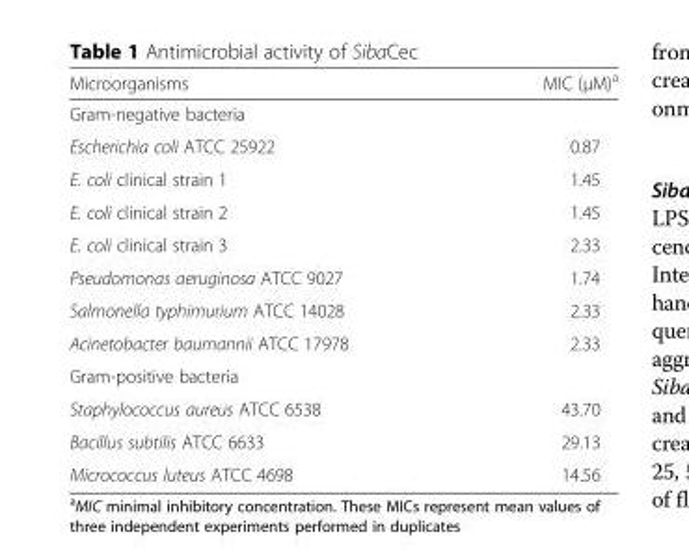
<table><thead><tr><td>Microorganisms</td><td>MIC (μM)<sup>a</sup></td></tr></thead><tbody><tr><td colspan="2">Gram-negative bacteria</td></tr><tr><td>Escherichia coli ATCC 25922</td><td>0.87</td></tr><tr><td>E. coli clinical strain 1</td><td>1.45</td></tr><tr><td>E. coli clinical strain 2</td><td>1.45</td></tr><tr><td>E. coli clinical strain 3</td><td>2.33</td></tr><tr><td>Pseudomonas aeruginosa ATCC 9027</td><td>1.74</td></tr><tr><td>Salmonella typhimurium ATCC 14028</td><td>2.33</td></tr><tr><td>Acinetobacter baumannii ATCC 17978</td><td>2.33</td></tr><tr><td colspan="2">Gram-positive bacteria</td></tr><tr><td>Staphylococcus aureus ATCC 6538</td><td>43.70</td></tr><tr><td>Bacillus subtilis ATCC 6633</td><td>29.13</td></tr><tr><td>Micrococcus luteus ATCC 4698</td><td>14.56</td></tr></tbody></table>